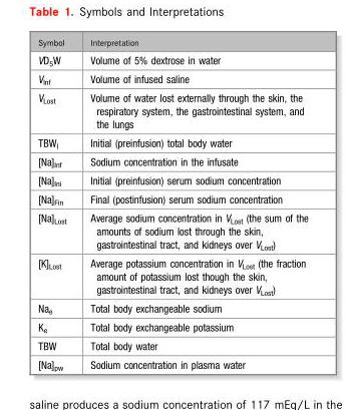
<table><thead><tr><td>Symbol</td><td>Interpretation</td></tr></thead><tbody><tr><td>VD<sub>5</sub>W</td><td>Volume of 5% dextrose in water</td></tr><tr><td>V<sub>Inf</sub></td><td>Volume of infused saline</td></tr><tr><td>V<sub>Lost</sub></td><td>Volume of water lost externally through the skin, the respiratory system, the gastrointestinal system, and the lungs</td></tr><tr><td>TBW<sub>I</sub></td><td>Initial (preinfusion) total body water</td></tr><tr><td>[Na]<sub>Inf</sub></td><td>Sodium concentration in the infusate</td></tr><tr><td>[Na]<sub>Ini</sub></td><td>Initial (preinfusion) serum sodium concentration</td></tr><tr><td>[Na]<sub>Fin</sub></td><td>Final (postinfusion) serum sodium concentration</td></tr><tr><td>[Na]<sub>Lost</sub></td><td>Average sodium concentration in V<sub>Lost</sub> (the sum of the amounts of sodium lost through the skin, gastrointestinal tract, and kidneys over V<sub>Lost</sub>)</td></tr><tr><td>[K]<sub>Lost</sub></td><td>Average potassium concentration in V<sub>Lost</sub> (the fraction amount of potassium lost though the skin, gastrointestinal tract, and kidneys over V<sub>Lost</sub>)</td></tr><tr><td>Na<sub>e</sub></td><td>Total body exchangeable sodium</td></tr><tr><td>K<sub>e</sub></td><td>Total body exchangeable potassium</td></tr><tr><td>TBW</td><td>Total body water</td></tr><tr><td>[Na]<sub>pw</sub></td><td>Sodium concentration in plasma water</td></tr></tbody></table>